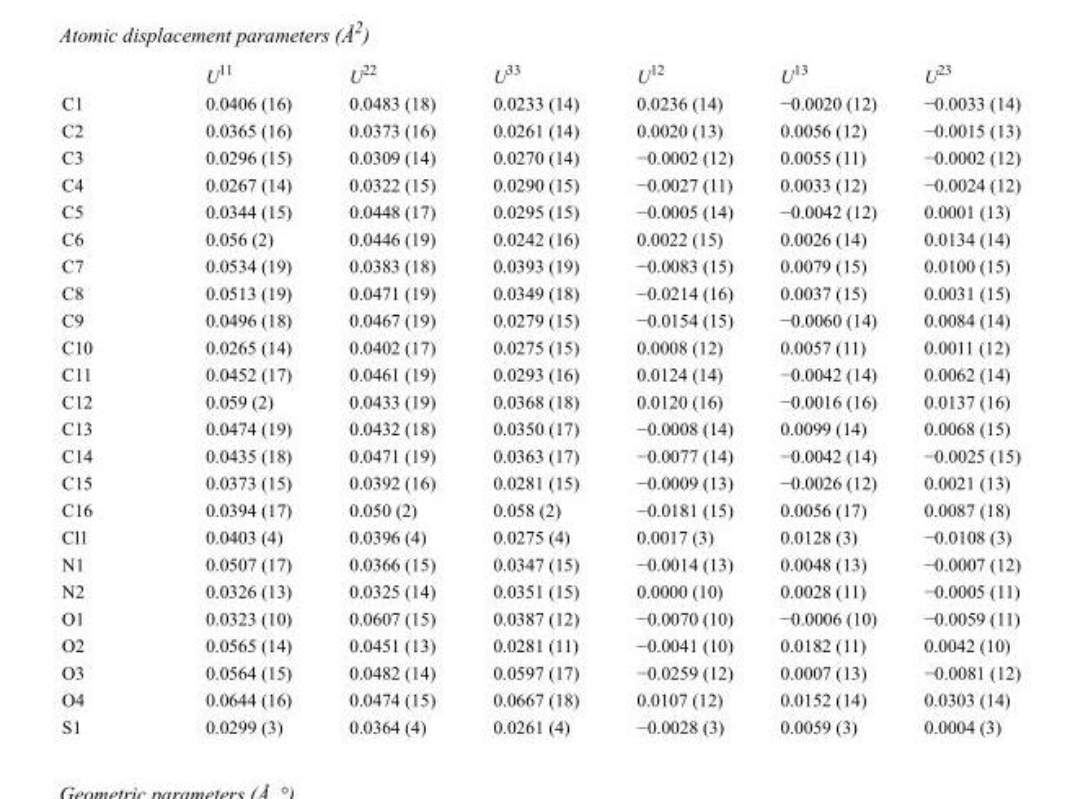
<table><thead><tr><td></td><td>U<sup>11</sup></td><td>U<sup>22</sup></td><td>U<sup>33</sup></td><td>U<sup>12</sup></td><td>U<sup>13</sup></td><td>U<sup>23</sup></td></tr></thead><tbody><tr><td>C1</td><td>0.0406 (16)</td><td>0.0483 (18)</td><td>0.0233 (14)</td><td>0.0236 (14)</td><td>−0.0020 (12)</td><td>−0.0033 (14)</td></tr><tr><td>C2</td><td>0.0365 (16)</td><td>0.0373 (16)</td><td>0.0261 (14)</td><td>0.0020 (13)</td><td>0.0056 (12)</td><td>−0.0015 (13)</td></tr><tr><td>C3</td><td>0.0296 (15)</td><td>0.0309 (14)</td><td>0.0270 (14)</td><td>−0.0002 (12)</td><td>0.0055 (11)</td><td>−0.0002 (12)</td></tr><tr><td>C4</td><td>0.0267 (14)</td><td>0.0322 (15)</td><td>0.0290 (15)</td><td>−0.0027 (11)</td><td>0.0033 (12)</td><td>−0.0024 (12)</td></tr><tr><td>C5</td><td>0.0344 (15)</td><td>0.0448 (17)</td><td>0.0295 (15)</td><td>−0.0005 (14)</td><td>−0.0042 (12)</td><td>0.0001 (13)</td></tr><tr><td>C6</td><td>0.056 (2)</td><td>0.0446 (19)</td><td>0.0242 (16)</td><td>0.0022 (15)</td><td>0.0026 (14)</td><td>0.0134 (14)</td></tr><tr><td>C7</td><td>0.0534 (19)</td><td>0.0383 (18)</td><td>0.0393 (19)</td><td>−0.0083 (15)</td><td>0.0079 (15)</td><td>0.0100 (15)</td></tr><tr><td>C8</td><td>0.0513 (19)</td><td>0.0471 (19)</td><td>0.0349 (18)</td><td>−0.0214 (16)</td><td>0.0037 (15)</td><td>0.0031 (15)</td></tr><tr><td>C9</td><td>0.0496 (18)</td><td>0.0467 (19)</td><td>0.0279 (15)</td><td>−0.0154 (15)</td><td>−0.0060 (14)</td><td>0.0084 (14)</td></tr><tr><td>C10</td><td>0.0265 (14)</td><td>0.0402 (17)</td><td>0.0275 (15)</td><td>0.0008 (12)</td><td>0.0057 (11)</td><td>0.0011 (12)</td></tr><tr><td>C11</td><td>0.0452 (17)</td><td>0.0461 (19)</td><td>0.0293 (16)</td><td>0.0124 (14)</td><td>−0.0042 (14)</td><td>0.0062 (14)</td></tr><tr><td>C12</td><td>0.059 (2)</td><td>0.0433 (19)</td><td>0.0368 (18)</td><td>0.0120 (16)</td><td>−0.0016 (16)</td><td>0.0137 (16)</td></tr><tr><td>C13</td><td>0.0474 (19)</td><td>0.0432 (18)</td><td>0.0350 (17)</td><td>−0.0008 (14)</td><td>0.0099 (14)</td><td>0.0068 (15)</td></tr><tr><td>C14</td><td>0.0435 (18)</td><td>0.0471 (19)</td><td>0.0363 (17)</td><td>−0.0077 (14)</td><td>−0.0042 (14)</td><td>−0.0025 (15)</td></tr><tr><td>C15</td><td>0.0373 (15)</td><td>0.0392 (16)</td><td>0.0281 (15)</td><td>−0.0009 (13)</td><td>−0.0026 (12)</td><td>0.0021 (13)</td></tr><tr><td>C16</td><td>0.0394 (17)</td><td>0.050 (2)</td><td>0.058 (2)</td><td>−0.0181 (15)</td><td>0.0056 (17)</td><td>0.0087 (18)</td></tr><tr><td>Cl1</td><td>0.0403 (4)</td><td>0.0396 (4)</td><td>0.0275 (4)</td><td>0.0017 (3)</td><td>0.0128 (3)</td><td>−0.0108 (3)</td></tr><tr><td>N1</td><td>0.0507 (17)</td><td>0.0366 (15)</td><td>0.0347 (15)</td><td>−0.0014 (13)</td><td>0.0048 (13)</td><td>−0.0007 (12)</td></tr><tr><td>N2</td><td>0.0326 (13)</td><td>0.0325 (14)</td><td>0.0351 (15)</td><td>0.0000 (10)</td><td>0.0028 (11)</td><td>−0.0005 (11)</td></tr><tr><td>O1</td><td>0.0323 (10)</td><td>0.0607 (15)</td><td>0.0387 (12)</td><td>−0.0070 (10)</td><td>−0.0006 (10)</td><td>−0.0059 (11)</td></tr><tr><td>O2</td><td>0.0565 (14)</td><td>0.0451 (13)</td><td>0.0281 (11)</td><td>−0.0041 (10)</td><td>0.0182 (11)</td><td>0.0042 (10)</td></tr><tr><td>O3</td><td>0.0564 (15)</td><td>0.0482 (14)</td><td>0.0597 (17)</td><td>−0.0259 (12)</td><td>0.0007 (13)</td><td>−0.0081 (12)</td></tr><tr><td>O4</td><td>0.0644 (16)</td><td>0.0474 (15)</td><td>0.0667 (18)</td><td>0.0107 (12)</td><td>0.0152 (14)</td><td>0.0303 (14)</td></tr><tr><td>S1</td><td>0.0299 (3)</td><td>0.0364 (4)</td><td>0.0261 (4)</td><td>−0.0028 (3)</td><td>0.0059 (3)</td><td>0.0004 (3)</td></tr></tbody></table>